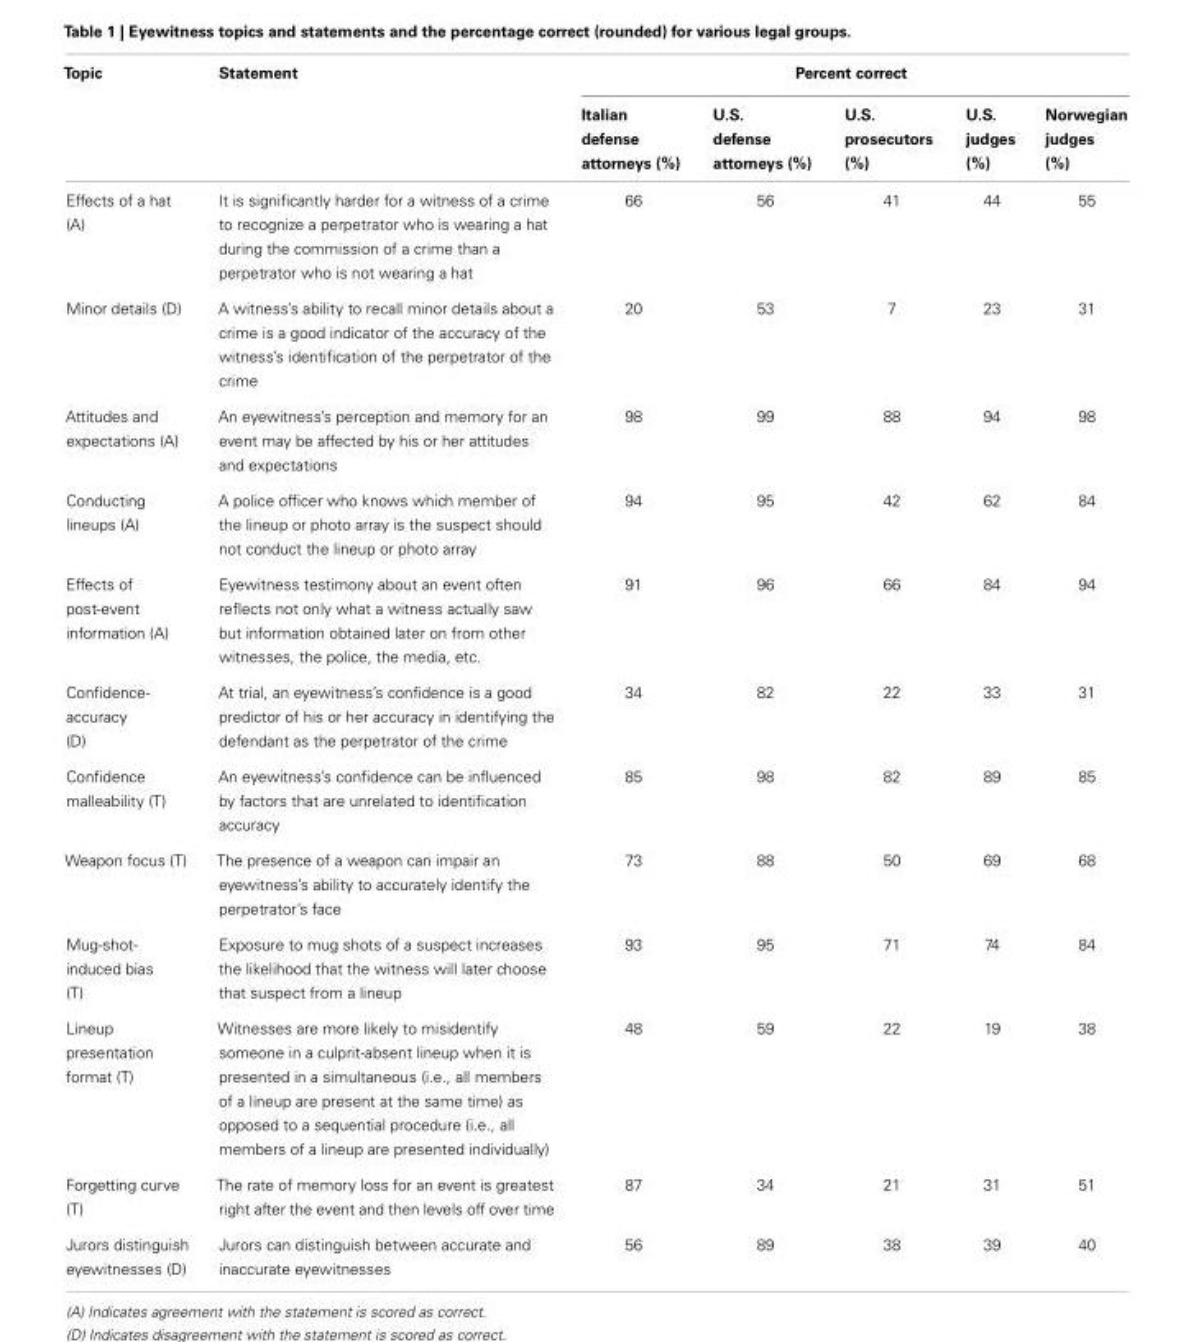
<table><thead><tr><td rowspan="2">Topic</td><td rowspan="2">Statement</td><td colspan="5">Percent correct</td></tr><tr><td>Italian defense attorneys (%)</td><td>U.S. defense attorneys (%)</td><td>U.S. prosecutors (%)</td><td>U.S. judges (%)</td><td>Norwegian judges (%)</td></tr></thead><tbody><tr><td>Effects of a hat (A)</td><td>It is significantly harder for a witness of a crime to recognize a perpetrator who is wearing a hat during the commission of a crime than a perpetrator who is not wearing a hat</td><td>66</td><td>56</td><td>41</td><td>44</td><td>55</td></tr><tr><td>Minor details (D)</td><td>A witness’s ability to recall minor details about a crime is a good indicator of the accuracy of the witness’s identification of the perpetrator of the crime</td><td>20</td><td>53</td><td>7</td><td>23</td><td>31</td></tr><tr><td>Attitudes and expectations (A)</td><td>An eyewitness’s perception and memory for an event may be affected by his or her attitudes and expectations</td><td>98</td><td>99</td><td>88</td><td>94</td><td>98</td></tr><tr><td>Conducting lineups (A)</td><td>A police officer who knows which member of the lineup or photo array is the suspect should not conduct the lineup or photo array</td><td>94</td><td>95</td><td>42</td><td>62</td><td>84</td></tr><tr><td>Effects of post-event information (A)</td><td>Eyewitness testimony about an event often reflects not only what a witness actually saw but information obtained later on from other witnesses, the police, the media, etc.</td><td>91</td><td>96</td><td>66</td><td>84</td><td>94</td></tr><tr><td>Confidence- accuracy (D)</td><td>At trial, an eyewitness’s confidence is a good predictor of his or her accuracy in identifying the defendant as the perpetrator of the crime</td><td>34</td><td>82</td><td>22</td><td>33</td><td>31</td></tr><tr><td>Confidence malleability (T)</td><td>An eyewitness’s confidence can be influenced by factors that are unrelated to identification accuracy</td><td>85</td><td>98</td><td>82</td><td>89</td><td>85</td></tr><tr><td>Weapon focus (T)</td><td>The presence of a weapon can impair an eyewitness’s ability to accurately identify the perpetrator’s face</td><td>73</td><td>88</td><td>50</td><td>69</td><td>68</td></tr><tr><td>Mug-shot- induced bias (T)</td><td>Exposure to mug shots of a suspect increases the likelihood that the witness will later choose that suspect from a lineup</td><td>93</td><td>95</td><td>71</td><td>74</td><td>84</td></tr><tr><td>Lineup presentation format (T)</td><td>Witnesses are more likely to misidentify someone in a culprit-absent lineup when it is presented in a simultaneous (i.e., all members of a lineup are present at the same time) as opposed to a sequential procedure (i.e., all members of a lineup are presented individually)</td><td>48</td><td>59</td><td>22</td><td>19</td><td>38</td></tr><tr><td>Forgetting curve (T)</td><td>The rate of memory loss for an event is greatest right after the event and then levels off over time</td><td>87</td><td>34</td><td>21</td><td>31</td><td>51</td></tr><tr><td>Jurors distinguish eyewitnesses (D)</td><td>Jurors can distinguish between accurate and inaccurate eyewitnesses</td><td>56</td><td>89</td><td>38</td><td>39</td><td>40</td></tr></tbody></table>